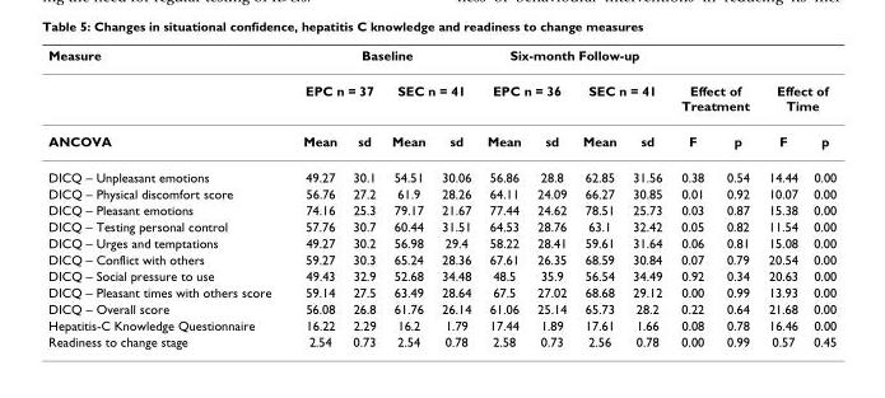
<table><thead><tr><td rowspan="3">Measure ANCOVA</td><td colspan="4">Baseline</td><td colspan="4">Six-month Follow-up</td><td></td><td></td><td></td><td></td></tr><tr><td colspan="2">EPC n = 37</td><td colspan="2">SEC n = 41</td><td colspan="2">EPC n = 36</td><td colspan="2">SEC n = 41</td><td colspan="2">Effect of Treatment</td><td colspan="2">Effect of Time</td></tr><tr><td>Mean</td><td>sd</td><td>Mean</td><td>sd</td><td>Mean</td><td>sd</td><td>Mean</td><td>sd</td><td>F</td><td>p</td><td>F</td><td>p</td></tr></thead><tbody><tr><td>DICQ – Unpleasant emotions</td><td>49.27</td><td>30.1</td><td>54.51</td><td>30.06</td><td>56.86</td><td>28.8</td><td>62.85</td><td>31.56</td><td>0.38</td><td>0.54</td><td>14.44</td><td>0.00</td></tr><tr><td>DICQ – Physical discomfort score</td><td>56.76</td><td>27.2</td><td>61.9</td><td>28.26</td><td>64.11</td><td>24.09</td><td>66.27</td><td>30.85</td><td>0.01</td><td>0.92</td><td>10.07</td><td>0.00</td></tr><tr><td>DICQ – Pleasant emotions</td><td>74.16</td><td>25.3</td><td>79.17</td><td>21.67</td><td>77.44</td><td>24.62</td><td>78.51</td><td>25.73</td><td>0.03</td><td>0.87</td><td>15.38</td><td>0.00</td></tr><tr><td>DICQ – Testing personal control</td><td>57.76</td><td>30.7</td><td>60.44</td><td>31.51</td><td>64.53</td><td>28.76</td><td>63.1</td><td>32.42</td><td>0.05</td><td>0.82</td><td>11.54</td><td>0.00</td></tr><tr><td>DICQ – Urges and temptations</td><td>49.27</td><td>30.2</td><td>56.98</td><td>29.4</td><td>58.22</td><td>28.41</td><td>59.61</td><td>31.64</td><td>0.06</td><td>0.81</td><td>15.08</td><td>0.00</td></tr><tr><td>DICQ – Conflict with others</td><td>59.27</td><td>30.3</td><td>65.24</td><td>28.36</td><td>67.61</td><td>26.35</td><td>68.59</td><td>30.84</td><td>0.07</td><td>0.79</td><td>20.54</td><td>0.00</td></tr><tr><td>DICQ – Social pressure to use</td><td>49.43</td><td>32.9</td><td>52.68</td><td>34.48</td><td>48.5</td><td>35.9</td><td>56.54</td><td>34.49</td><td>0.92</td><td>0.34</td><td>20.63</td><td>0.00</td></tr><tr><td>DICQ – Pleasant times with others score</td><td>59.14</td><td>27.5</td><td>63.49</td><td>28.64</td><td>67.5</td><td>27.02</td><td>68.68</td><td>29.12</td><td>0.00</td><td>0.99</td><td>13.93</td><td>0.00</td></tr><tr><td>DICQ – Overall score</td><td>56.08</td><td>26.8</td><td>61.76</td><td>26.14</td><td>61.06</td><td>25.14</td><td>65.73</td><td>28.2</td><td>0.22</td><td>0.64</td><td>21.68</td><td>0.00</td></tr><tr><td>Hepatitis-C Knowledge Questionnaire</td><td>16.22</td><td>2.29</td><td>16.2</td><td>1.79</td><td>17.44</td><td>1.89</td><td>17.61</td><td>1.66</td><td>0.08</td><td>0.78</td><td>16.46</td><td>0.00</td></tr><tr><td>Readiness to change stage</td><td>2.54</td><td>0.73</td><td>2.54</td><td>0.78</td><td>2.58</td><td>0.73</td><td>2.56</td><td>0.78</td><td>0.00</td><td>0.99</td><td>0.57</td><td>0.45</td></tr></tbody></table>